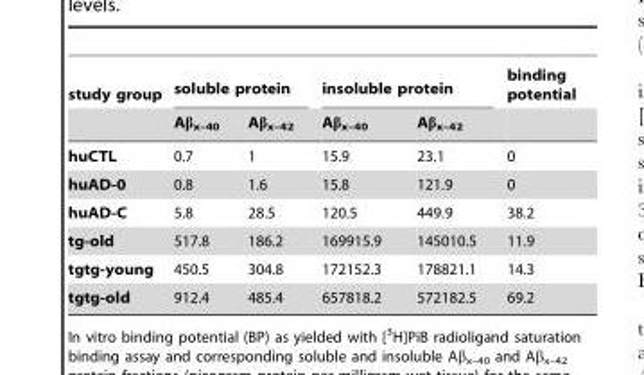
<table><thead><tr><td rowspan="2">study group</td><td colspan="2">soluble protein</td><td colspan="2">insoluble protein</td><td rowspan="2">binding potential</td></tr><tr><td>Aβ<sub>x–40</sub></td><td>Aβ<sub>x–42</sub></td><td>Aβ<sub>x–40</sub></td><td>Aβ<sub>x–42</sub></td></tr></thead><tbody><tr><td>huCTL</td><td>0.7</td><td>1</td><td>15.9</td><td>23.1</td><td>0</td></tr><tr><td>huAD-0</td><td>0.8</td><td>1.6</td><td>15.8</td><td>121.9</td><td>0</td></tr><tr><td>huAD-C</td><td>5.8</td><td>28.5</td><td>120.5</td><td>449.9</td><td>38.2</td></tr><tr><td>tg-old</td><td>517.8</td><td>186.2</td><td>169915.9</td><td>145010.5</td><td>11.9</td></tr><tr><td>tgtg-young</td><td>450.5</td><td>304.8</td><td>172152.3</td><td>178821.1</td><td>14.3</td></tr><tr><td>tgtg-old</td><td>912.4</td><td>485.4</td><td>657818.2</td><td>572182.5</td><td>69.2</td></tr></tbody></table>